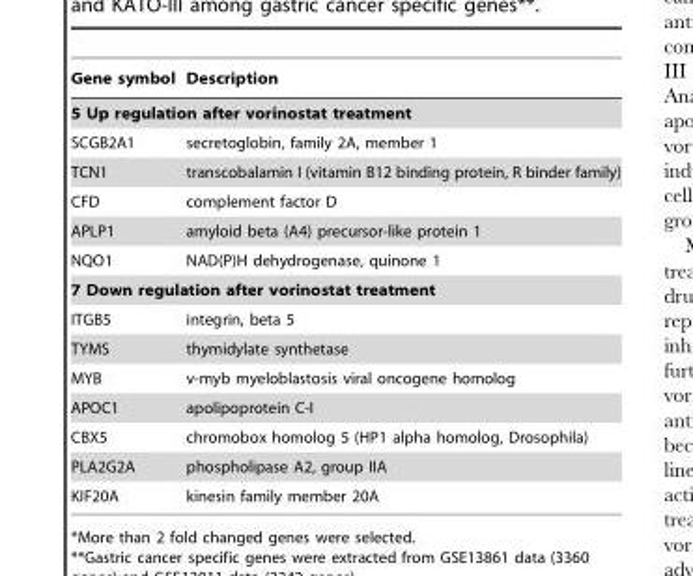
<table><thead><tr><td>Gene symbol</td><td>Description</td></tr></thead><tbody><tr><td colspan="2">5 Up regulation after vorinostat treatment</td></tr><tr><td>SCGB2A1</td><td>secretoglobin, family 2A, member 1</td></tr><tr><td>TCN1</td><td>transcobalamin I (vitamin B12 binding protein, R binder family)</td></tr><tr><td>CFD</td><td>complement factor D</td></tr><tr><td>APLP1</td><td>amyloid beta (A4) precursor-like protein 1</td></tr><tr><td>NQO1</td><td>NAD(P)H dehydrogenase, quinone 1</td></tr><tr><td colspan="2">7 Down regulation after vorinostat treatment</td></tr><tr><td>ITGB5</td><td>integrin, beta 5</td></tr><tr><td>TYMS</td><td>thymidylate synthetase</td></tr><tr><td>MYB</td><td>v-myb myeloblastosis viral oncogene homolog</td></tr><tr><td>APOC1</td><td>apolipoprotein C-I</td></tr><tr><td>CBX5</td><td>chromobox homolog 5 (HP1 alpha homolog, Drosophila)</td></tr><tr><td>PLA2G2A</td><td>phospholipase A2, group IIA</td></tr><tr><td>KIF20A</td><td>kinesin family member 20A</td></tr></tbody></table>